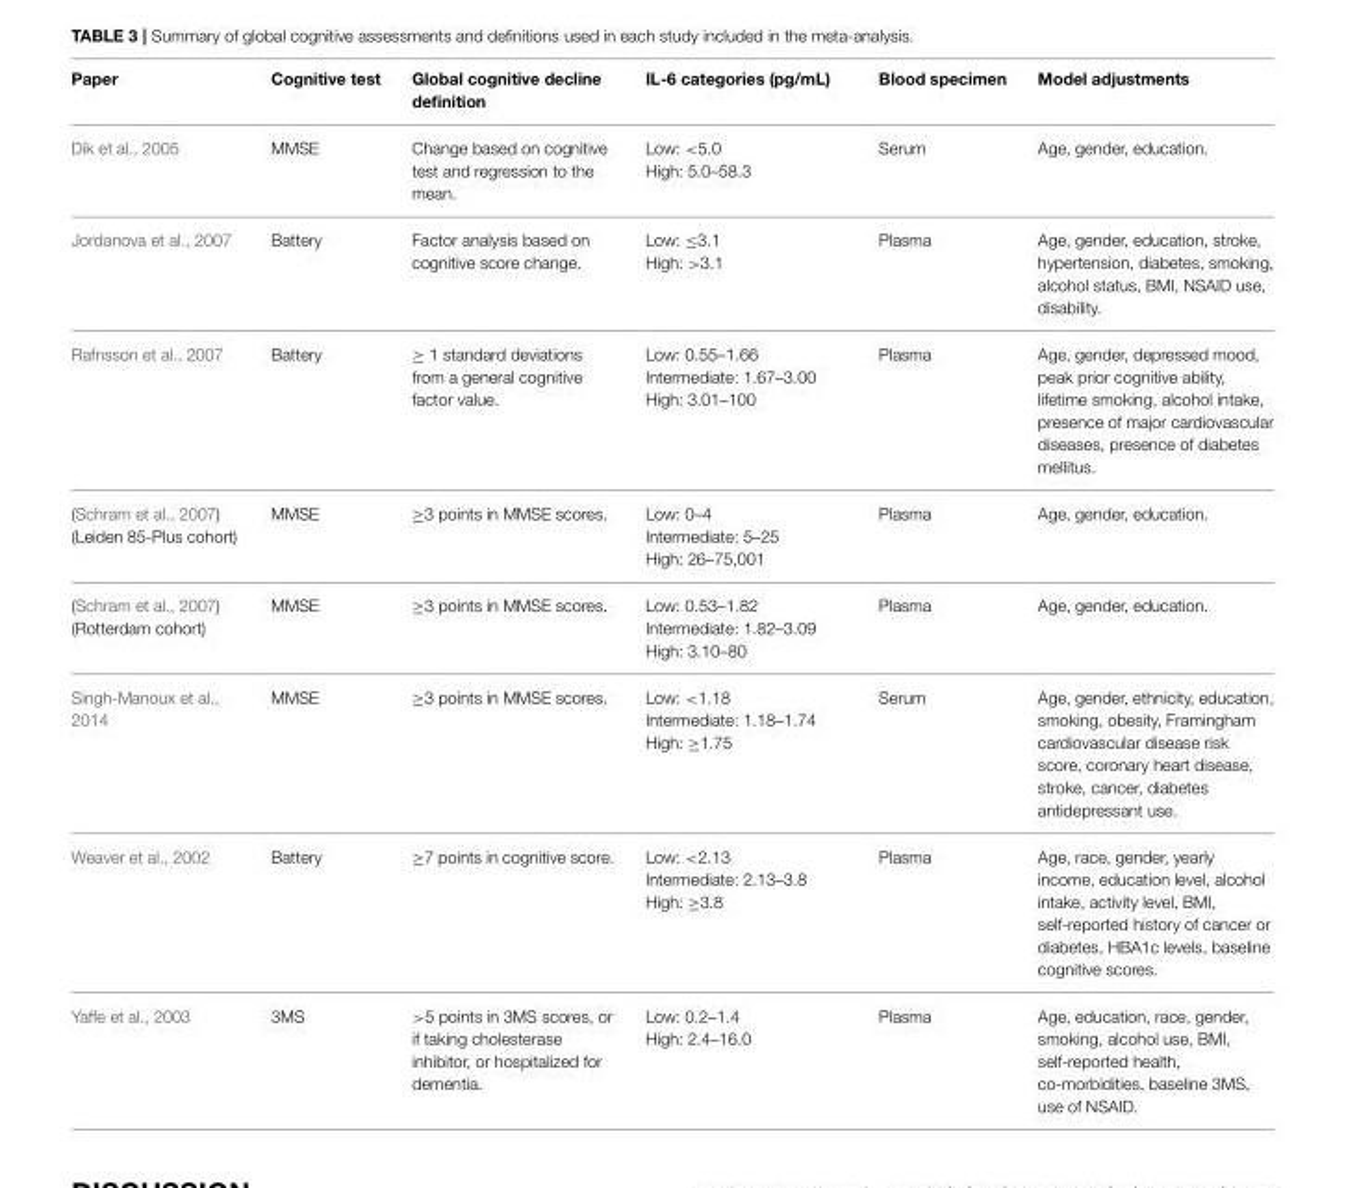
<table><thead><tr><td>Paper</td><td>Cognitive test</td><td>Global cognitive decline definition</td><td>IL-6 categories (pg/mL)</td><td>Blood specimen</td><td>Model adjustments</td></tr></thead><tbody><tr><td>Dik et al., 2005</td><td>MMSE</td><td>Change based on cognitive test and regression to the mean.</td><td>Low: &lt;5.0 High: 5.0–58.3</td><td>Serum</td><td>Age, gender, education.</td></tr><tr><td>Jordanova et al., 2007</td><td>Battery</td><td>Factor analysis based on cognitive score change.</td><td>Low: ≤3.1 High: &gt;3.1</td><td>Plasma</td><td>Age, gender, education, stroke, hypertension, diabetes, smoking, alcohol status, BMI, NSAID use, disability.</td></tr><tr><td>Rafnsson et al., 2007</td><td>Battery</td><td>≥ 1 standard deviations from a general cognitive factor value.</td><td>Low: 0.55–1.66 Intermediate: 1.67–3.00 High: 3.01–100</td><td>Plasma</td><td>Age, gender, depressed mood, peak prior cognitive ability, lifetime smoking, alcohol intake, presence of major cardiovascular diseases, presence of diabetes mellitus.</td></tr><tr><td>(Schram et al., 2007) (Leiden 85-Plus cohort)</td><td>MMSE</td><td>≥3 points in MMSE scores.</td><td>Low: 0–4 Intermediate: 5–25 High: 26–75,001</td><td>Plasma</td><td>Age, gender, education.</td></tr><tr><td>(Schram et al., 2007) (Rotterdam cohort)</td><td>MMSE</td><td>≥3 points in MMSE scores.</td><td>Low: 0.53–1.82 Intermediate: 1.82–3.09 High: 3.10–80</td><td>Plasma</td><td>Age, gender, education.</td></tr><tr><td>Singh-Manoux et al., 2014</td><td>MMSE</td><td>≥3 points in MMSE scores.</td><td>Low: &lt;1.18 Intermediate: 1.18–1.74 High: ≥1.75</td><td>Serum</td><td>Age, gender, ethnicity, education, smoking, obesity, Framingham cardiovascular disease risk score, coronary heart disease, stroke, cancer, diabetes antidepressant use.</td></tr><tr><td>Weaver et al., 2002</td><td>Battery</td><td>≥7 points in cognitive score.</td><td>Low: &lt;2.13 Intermediate: 2.13–3.8 High: ≥3.8</td><td>Plasma</td><td>Age, race, gender, yearly income, education level, alcohol intake, activity level, BMI, self-reported history of cancer or diabetes, HBA1c levels, baseline cognitive scores.</td></tr><tr><td>Yaffe et al., 2003</td><td>3MS</td><td>&gt;5 points in 3MS scores, or if taking cholesterase inhibitor, or hospitalized for dementia.</td><td>Low: 0.2–1.4 High: 2.4–16.0</td><td>Plasma</td><td>Age, education, race, gender, smoking, alcohol use, BMI, self-reported health, co-morbidities, baseline 3MS, use of NSAID.</td></tr></tbody></table>